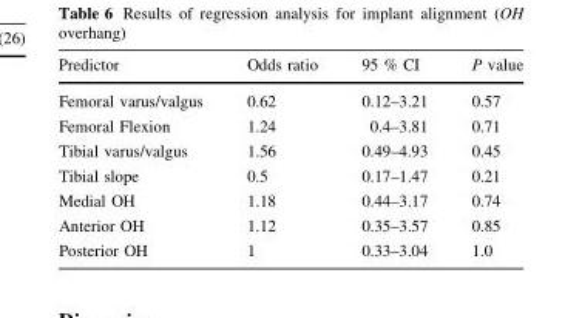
<table><thead><tr><td>Predictor</td><td>Odds ratio</td><td>95 % CI</td><td>P value</td></tr></thead><tbody><tr><td>Femoral varus/valgus</td><td>0.62</td><td>0.12–3.21</td><td>0.57</td></tr><tr><td>Femoral Flexion</td><td>1.24</td><td>0.4–3.81</td><td>0.71</td></tr><tr><td>Tibial varus/valgus</td><td>1.56</td><td>0.49–4.93</td><td>0.45</td></tr><tr><td>Tibial slope</td><td>0.5</td><td>0.17–1.47</td><td>0.21</td></tr><tr><td>Medial OH</td><td>1.18</td><td>0.44–3.17</td><td>0.74</td></tr><tr><td>Anterior OH</td><td>1.12</td><td>0.35–3.57</td><td>0.85</td></tr><tr><td>Posterior OH</td><td>1</td><td>0.33–3.04</td><td>1.0</td></tr></tbody></table>